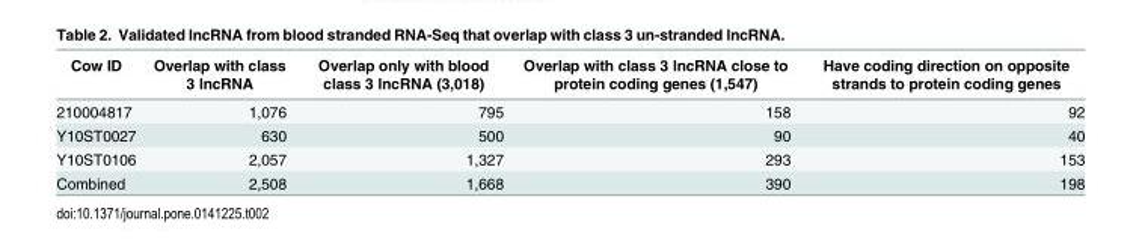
<table><thead><tr><td>Cow ID</td><td>Overlap with class 3 lncRNA</td><td>Overlap only with blood class 3 lncRNA (3,018)</td><td>Overlap with class 3 lncRNA close to protein coding genes (1,547)</td><td>Have coding direction on opposite strands to protein coding genes</td></tr></thead><tbody><tr><td>210004817</td><td>1,076</td><td>795</td><td>158</td><td>92</td></tr><tr><td>Y10ST0027</td><td>630</td><td>500</td><td>90</td><td>40</td></tr><tr><td>Y10ST0106</td><td>2,057</td><td>1,327</td><td>293</td><td>153</td></tr><tr><td>Combined</td><td>2,508</td><td>1,668</td><td>390</td><td>198</td></tr></tbody></table>